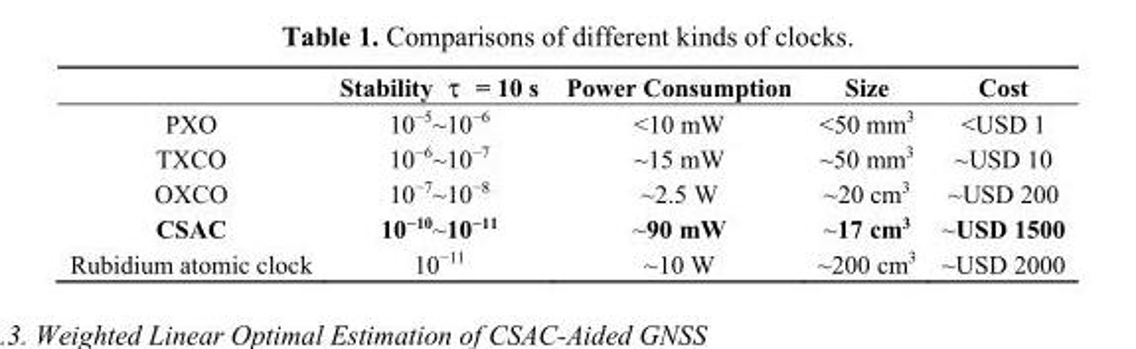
<table><thead><tr><td></td><td>Stability τ = 10 s</td><td>Power Consumption</td><td>Size</td><td>Cost</td></tr></thead><tbody><tr><td>PXO</td><td>10<sup>−5</sup>~10<sup>−6</sup></td><td>&lt;10 mW</td><td>&lt;50 mm<sup>3</sup></td><td>&lt;USD 1</td></tr><tr><td>TXCO</td><td>10<sup>−6</sup>~10<sup>−7</sup></td><td>~15 mW</td><td>~50 mm<sup>3</sup></td><td>~USD 10</td></tr><tr><td>OXCO</td><td>10<sup>−7</sup>~10<sup>−8</sup></td><td>~2.5 W</td><td>~20 cm<sup>3</sup></td><td>~USD 200</td></tr><tr><td>CSAC</td><td>10<sup>−10</sup>~10<sup>−11</sup></td><td>~90 mW</td><td>~17 cm<sup>3</sup></td><td>~USD 1500</td></tr><tr><td>Rubidium atomic clock</td><td>10<sup>−11</sup></td><td>~10 W</td><td>~200 cm<sup>3</sup></td><td>~USD 2000</td></tr></tbody></table>